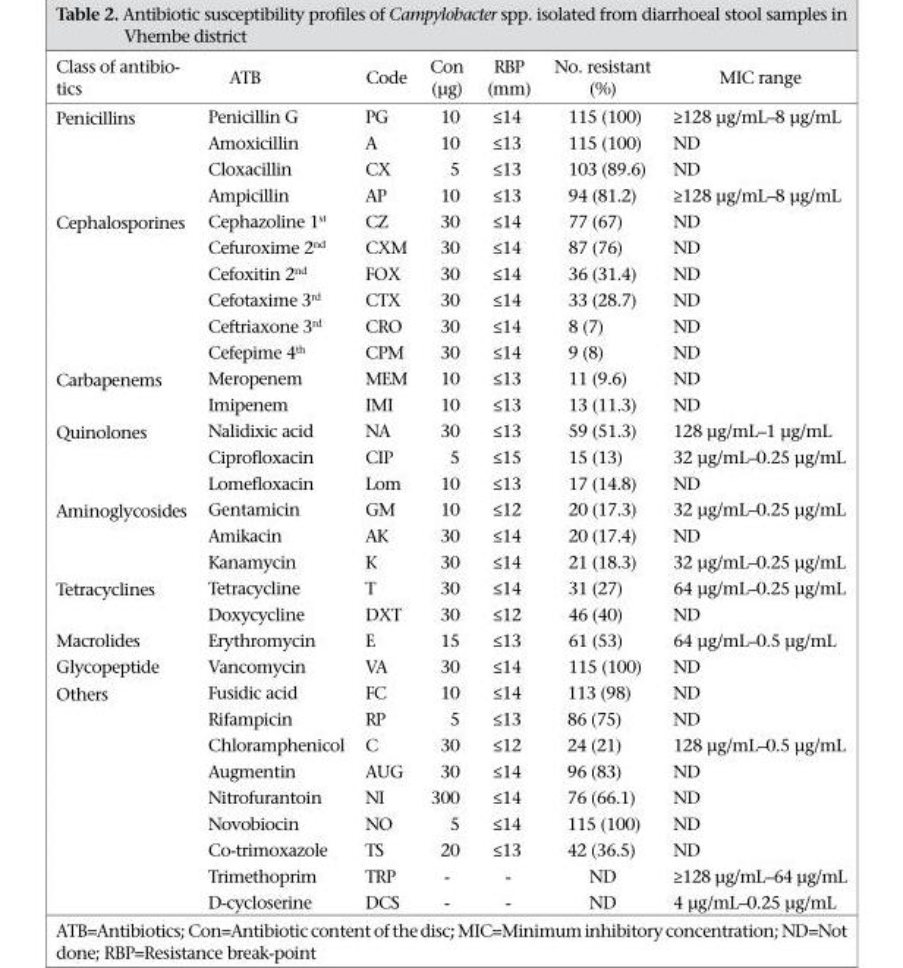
<table><thead><tr><td>Class of antibio- tics</td><td>ATB</td><td>Code</td><td>Con (µg)</td><td>RBP (mm)</td><td>No. resistant (%)</td><td>MIC range</td></tr></thead><tbody><tr><td rowspan="4">Penicillins</td><td>Penicillin G</td><td>PG</td><td>10</td><td>≤14</td><td>115 (100)</td><td>≥128 µg/mL–8 µg/mL</td></tr><tr><td>Amoxicillin</td><td>A</td><td>10</td><td>≤13</td><td>115 (100)</td><td>ND</td></tr><tr><td>Cloxacillin</td><td>CX</td><td>5</td><td>≤13</td><td>103 (89.6)</td><td>ND</td></tr><tr><td>Ampicillin</td><td>AP</td><td>10</td><td>≤13</td><td>94 (81.2)</td><td>≥128 µg/mL–8 µg/mL</td></tr><tr><td rowspan="6">Cephalosporines</td><td>Cephazoline 1<sup>st</sup></td><td>CZ</td><td>30</td><td>≤14</td><td>77 (67)</td><td>ND</td></tr><tr><td>Cefuroxime 2<sup>nd</sup></td><td>CXM</td><td>30</td><td>≤14</td><td>87 (76)</td><td>ND</td></tr><tr><td>Cefoxitin 2<sup>nd</sup></td><td>FOX</td><td>30</td><td>≤14</td><td>36 (31.4)</td><td>ND</td></tr><tr><td>Cefotaxime 3<sup>rd</sup></td><td>CTX</td><td>30</td><td>≤14</td><td>33 (28.7)</td><td>ND</td></tr><tr><td>Ceftriaxone 3<sup>rd</sup></td><td>CRO</td><td>30</td><td>≤14</td><td>8 (7)</td><td>ND</td></tr><tr><td>Cefepime 4<sup>th</sup></td><td>CPM</td><td>30</td><td>≤14</td><td>9 (8)</td><td>ND</td></tr><tr><td rowspan="2">Carbapenems</td><td>Meropenem</td><td>MEM</td><td>10</td><td>≤13</td><td>11 (9.6)</td><td>ND</td></tr><tr><td>Imipenem</td><td>IMI</td><td>10</td><td>≤13</td><td>13 (11.3)</td><td>ND</td></tr><tr><td rowspan="3">Quinolones</td><td>Nalidixic acid</td><td>NA</td><td>30</td><td>≤13</td><td>59 (51.3)</td><td>128 µg/mL–1 µg/mL</td></tr><tr><td>Ciprofloxacin</td><td>CIP</td><td>5</td><td>≤15</td><td>15 (13)</td><td>32 µg/mL–0.25 µg/mL</td></tr><tr><td>Lomefloxacin</td><td>Lom</td><td>10</td><td>≤13</td><td>17 (14.8)</td><td>ND</td></tr><tr><td rowspan="3">Aminoglycosides</td><td>Gentamicin</td><td>GM</td><td>10</td><td>≤12</td><td>20 (17.3)</td><td>32 µg/mL–0.25 µg/mL</td></tr><tr><td>Amikacin</td><td>AK</td><td>30</td><td>≤14</td><td>20 (17.4)</td><td>ND</td></tr><tr><td>Kanamycin</td><td>K</td><td>30</td><td>≤14</td><td>21 (18.3)</td><td>32 µg/mL–0.25 µg/mL</td></tr><tr><td rowspan="2">Tetracyclines</td><td>Tetracycline</td><td>T</td><td>30</td><td>≤14</td><td>31 (27)</td><td>64 µg/mL–0.25 µg/mL</td></tr><tr><td>Doxycycline</td><td>DXT</td><td>30</td><td>≤12</td><td>46 (40)</td><td>ND</td></tr><tr><td>Macrolides</td><td>Erythromycin</td><td>E</td><td>15</td><td>≤13</td><td>61 (53)</td><td>64 µg/mL–0.5 µg/mL</td></tr><tr><td>Glycopeptide</td><td>Vancomycin</td><td>VA</td><td>30</td><td>≤14</td><td>115 (100)</td><td>ND</td></tr><tr><td rowspan="9">Others</td><td>Fusidic acid</td><td>FC</td><td>10</td><td>≤14</td><td>113 (98)</td><td>ND</td></tr><tr><td>Rifampicin</td><td>RP</td><td>5</td><td>≤13</td><td>86 (75)</td><td>ND</td></tr><tr><td>Chloramphenicol</td><td>C</td><td>30</td><td>≤12</td><td>24 (21)</td><td>128 µg/mL–0.5 µg/mL</td></tr><tr><td>Augmentin</td><td>AUG</td><td>30</td><td>≤14</td><td>96 (83)</td><td>ND</td></tr><tr><td>Nitrofurantoin</td><td>NI</td><td>300</td><td>≤14</td><td>76 (66.1)</td><td>ND</td></tr><tr><td>Novobiocin</td><td>NO</td><td>5</td><td>≤14</td><td>115 (100)</td><td>ND</td></tr><tr><td>Co-trimoxazole</td><td>TS</td><td>20</td><td>≤13</td><td>42 (36.5)</td><td>ND</td></tr><tr><td>Trimethoprim</td><td>TRP</td><td>-</td><td>-</td><td>ND</td><td>≥128 µg/mL–64 µg/mL</td></tr><tr><td>D-cycloserine</td><td>DCS</td><td>-</td><td>-</td><td>ND</td><td>4 µg/mL–0.25 µg/mL</td></tr></tbody></table>